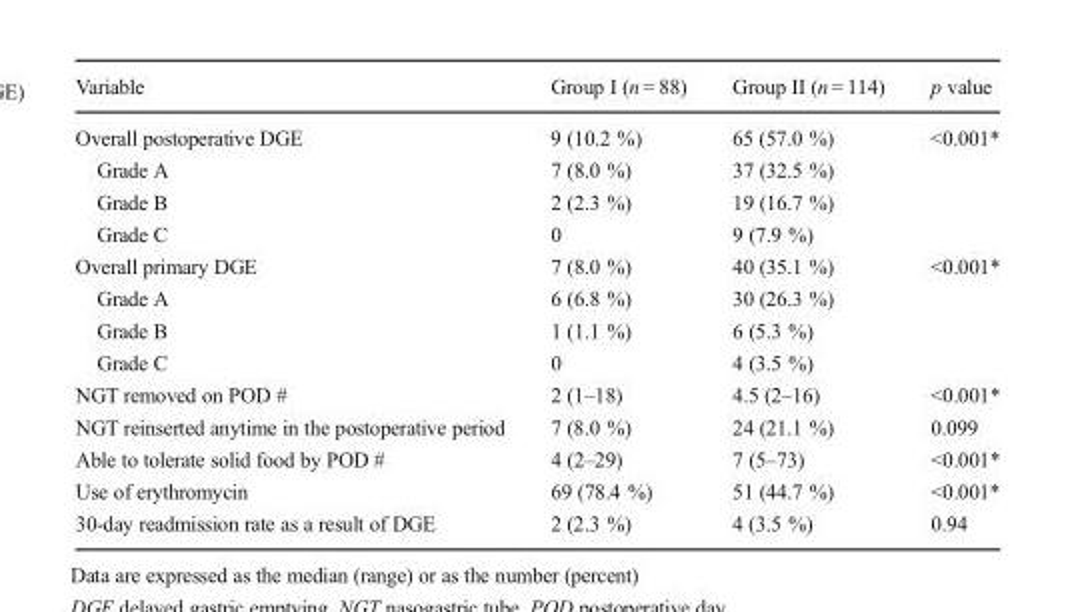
<table><thead><tr><td>Variable</td><td>Group I (n = 88)</td><td>Group II (n = 114)</td><td>p value</td></tr></thead><tbody><tr><td>Overall postoperative DGE</td><td>9 (10.2 %)</td><td>65 (57.0 %)</td><td>&lt;0.001*</td></tr><tr><td>Grade A</td><td>7 (8.0 %)</td><td>37 (32.5 %)</td><td></td></tr><tr><td>Grade B</td><td>2 (2.3 %)</td><td>19 (16.7 %)</td><td></td></tr><tr><td>Grade C</td><td>0</td><td>9 (7.9 %)</td><td></td></tr><tr><td>Overall primary DGE</td><td>7 (8.0 %)</td><td>40 (35.1 %)</td><td>&lt;0.001*</td></tr><tr><td>Grade A</td><td>6 (6.8 %)</td><td>30 (26.3 %)</td><td></td></tr><tr><td>Grade B</td><td>1 (1.1 %)</td><td>6 (5.3 %)</td><td></td></tr><tr><td>Grade C</td><td>0</td><td>4 (3.5 %)</td><td></td></tr><tr><td>NGT removed on POD #</td><td>2 (1–18)</td><td>4.5 (2–16)</td><td>&lt;0.001*</td></tr><tr><td>NGT reinserted anytime in the postoperative period</td><td>7 (8.0 %)</td><td>24 (21.1 %)</td><td>0.099</td></tr><tr><td>Able to tolerate solid food by POD #</td><td>4 (2–29)</td><td>7 (5–73)</td><td>&lt;0.001*</td></tr><tr><td>Use of erythromycin</td><td>69 (78.4 %)</td><td>51 (44.7 %)</td><td>&lt;0.001*</td></tr><tr><td>30-day readmission rate as a result of DGE</td><td>2 (2.3 %)</td><td>4 (3.5 %)</td><td>0.94</td></tr></tbody></table>